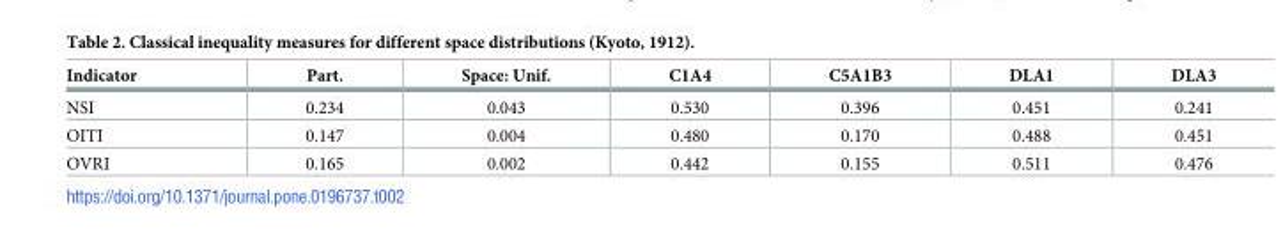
<table><thead><tr><td>Indicator</td><td>Part.</td><td>Space: Unif.</td><td>C1A4</td><td>C5A1B3</td><td>DLA1</td><td>DLA3</td></tr></thead><tbody><tr><td>NSI</td><td>0.234</td><td>0.043</td><td>0.530</td><td>0.396</td><td>0.451</td><td>0.241</td></tr><tr><td>OITI</td><td>0.147</td><td>0.004</td><td>0.480</td><td>0.170</td><td>0.488</td><td>0.451</td></tr><tr><td>OVRI</td><td>0.165</td><td>0.002</td><td>0.442</td><td>0.155</td><td>0.511</td><td>0.476</td></tr></tbody></table>